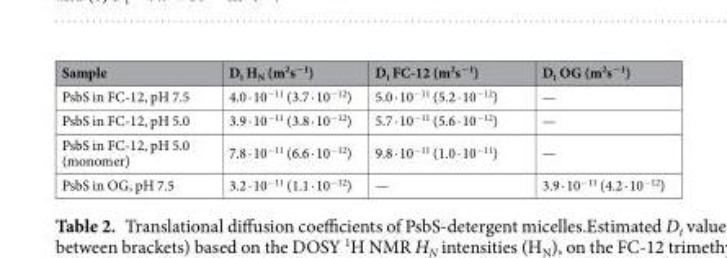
<table><thead><tr><td>Sample</td><td>D<sub>t</sub> H<sub>N</sub> (m<sup>2</sup>s<sup>−1</sup>)</td><td>D<sub>t</sub> FC-12 (m<sup>2</sup>s<sup>−1</sup>)</td><td>D<sub>t</sub> OG (m<sup>2</sup>s<sup>−1</sup>)</td></tr></thead><tbody><tr><td>PsbS in FC-12, pH 7.5</td><td>4.0 · 10<sup>−11</sup> (3.7 · 10<sup>−12</sup>)</td><td>5.0 · 10<sup>−11</sup> (5.2 · 10<sup>−12</sup>)</td><td>—</td></tr><tr><td>PsbS in FC-12, pH 5.0</td><td>3.9 · 10<sup>−11</sup> (3.8 · 10<sup>−12</sup>)</td><td>5.7 · 10<sup>−11</sup> (5.6 · 10<sup>−12</sup>)</td><td>—</td></tr><tr><td>PsbS in FC-12, pH 5.0 (monomer)</td><td>7.8 · 10<sup>−11</sup> (6.6 · 10<sup>−12</sup>)</td><td>9.8 · 10<sup>−11</sup> (1.0 · 10<sup>−11</sup>)</td><td>—</td></tr><tr><td>PsbS in OG, pH 7.5</td><td>3.2 · 10<sup>−11</sup> (1.1 · 10<sup>−12</sup>)</td><td>—</td><td>3.9 · 10<sup>−11</sup> (4.2 · 10<sup>−12</sup>)</td></tr></tbody></table>